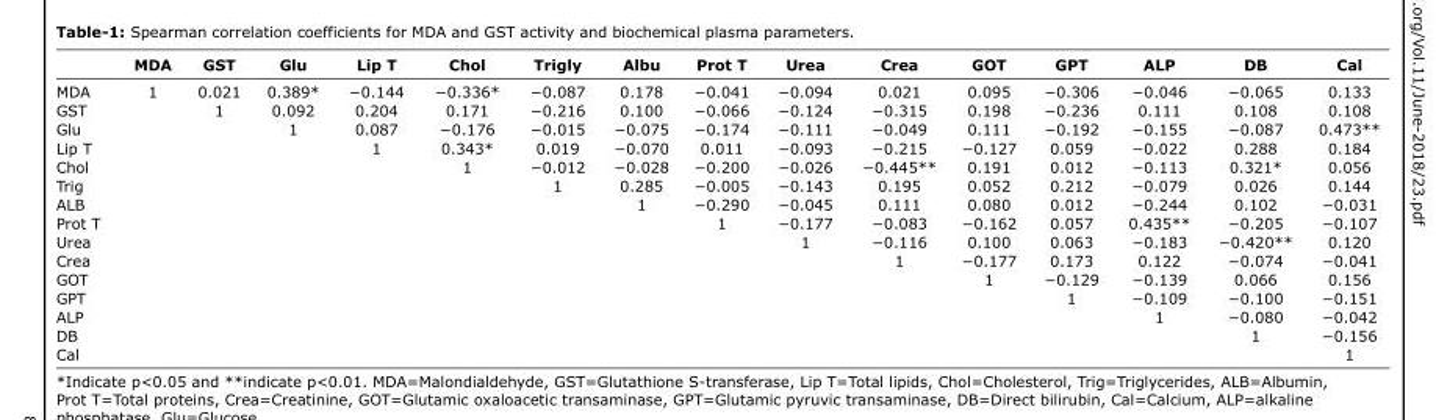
<table><thead><tr><td></td><td>MDA</td><td>GST</td><td>Glu</td><td>Lip T</td><td>Chol</td><td>Trigly</td><td>Albu</td><td>Prot T</td><td>Urea</td><td>Crea</td><td>GOT</td><td>GPT</td><td>ALP</td><td>DB</td><td>Cal</td></tr></thead><tbody><tr><td>MDA</td><td>1</td><td>0.021</td><td>0.389*</td><td>−0.144</td><td>−0.336*</td><td>−0.087</td><td>0.178</td><td>−0.041</td><td>−0.094</td><td>0.021</td><td>0.095</td><td>−0.306</td><td>−0.046</td><td>−0.065</td><td>0.133</td></tr><tr><td>GST</td><td></td><td>1</td><td>0.092</td><td>0.204</td><td>0.171</td><td>−0.216</td><td>0.100</td><td>−0.066</td><td>−0.124</td><td>−0.315</td><td>0.198</td><td>−0.236</td><td>0.111</td><td>0.108</td><td>0.108</td></tr><tr><td>Glu</td><td></td><td></td><td>1</td><td>0.087</td><td>−0.176</td><td>−0.015</td><td>−0.075</td><td>−0.174</td><td>−0.111</td><td>−0.049</td><td>0.111</td><td>−0.192</td><td>−0.155</td><td>−0.087</td><td>0.473**</td></tr><tr><td>Lip T</td><td></td><td></td><td></td><td>1</td><td>0.343*</td><td>0.019</td><td>−0.070</td><td>0.011</td><td>−0.093</td><td>−0.215</td><td>−0.127</td><td>0.059</td><td>−0.022</td><td>0.288</td><td>0.184</td></tr><tr><td>Chol</td><td></td><td></td><td></td><td></td><td>1</td><td>−0.012</td><td>−0.028</td><td>−0.200</td><td>−0.026</td><td>−0.445**</td><td>0.191</td><td>0.012</td><td>−0.113</td><td>0.321*</td><td>0.056</td></tr><tr><td>Trig</td><td></td><td></td><td></td><td></td><td></td><td>1</td><td>0.285</td><td>−0.005</td><td>−0.143</td><td>0.195</td><td>0.052</td><td>0.212</td><td>−0.079</td><td>0.026</td><td>0.144</td></tr><tr><td>ALB</td><td></td><td></td><td></td><td></td><td></td><td></td><td>1</td><td>−0.290</td><td>−0.045</td><td>0.111</td><td>0.080</td><td>0.012</td><td>−0.244</td><td>0.102</td><td>−0.031</td></tr><tr><td>Prot T</td><td></td><td></td><td></td><td></td><td></td><td></td><td></td><td>1</td><td>−0.177</td><td>−0.083</td><td>−0.162</td><td>0.057</td><td>0.435**</td><td>−0.205</td><td>−0.107</td></tr><tr><td>Urea</td><td></td><td></td><td></td><td></td><td></td><td></td><td></td><td></td><td>1</td><td>−0.116</td><td>0.100</td><td>0.063</td><td>−0.183</td><td>−0.420**</td><td>0.120</td></tr><tr><td>Crea</td><td></td><td></td><td></td><td></td><td></td><td></td><td></td><td></td><td></td><td>1</td><td>−0.177</td><td>0.173</td><td>0.122</td><td>−0.074</td><td>−0.041</td></tr><tr><td>GOT</td><td></td><td></td><td></td><td></td><td></td><td></td><td></td><td></td><td></td><td></td><td>1</td><td>−0.129</td><td>−0.139</td><td>0.066</td><td>0.156</td></tr><tr><td>GPT</td><td></td><td></td><td></td><td></td><td></td><td></td><td></td><td></td><td></td><td></td><td></td><td>1</td><td>−0.109</td><td>−0.100</td><td>−0.151</td></tr><tr><td>ALP</td><td></td><td></td><td></td><td></td><td></td><td></td><td></td><td></td><td></td><td></td><td></td><td></td><td>1</td><td>−0.080</td><td>−0.042</td></tr><tr><td>DB</td><td></td><td></td><td></td><td></td><td></td><td></td><td></td><td></td><td></td><td></td><td></td><td></td><td></td><td>1</td><td>−0.156</td></tr><tr><td>Cal</td><td></td><td></td><td></td><td></td><td></td><td></td><td></td><td></td><td></td><td></td><td></td><td></td><td></td><td></td><td>1</td></tr></tbody></table>